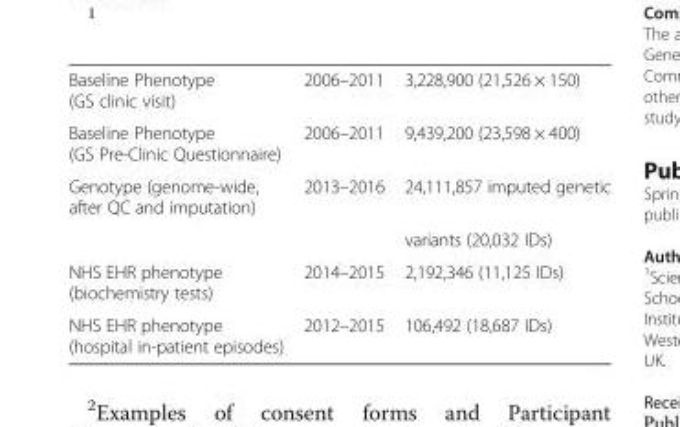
<table><tbody><tr><td>Baseline Phenotype (GS clinic visit)</td><td>2006–2011</td><td>3,228,900 (21,526 × 150)</td></tr><tr><td>Baseline Phenotype (GS Pre-Clinic Questionnaire)</td><td>2006–2011</td><td>9,439,200 (23,598 × 400)</td></tr><tr><td rowspan="2">Genotype (genome-wide, after QC and imputation)</td><td>2013–2016</td><td>24,111,857 imputed genetic</td></tr><tr><td></td><td>variants (20,032 IDs)</td></tr><tr><td>NHS EHR phenotype (biochemistry tests)</td><td>2014–2015</td><td>2,192,346 (11,125 IDs)</td></tr><tr><td>NHS EHR phenotype (hospital in-patient episodes)</td><td>2012–2015</td><td>106,492 (18,687 IDs)</td></tr></tbody></table>